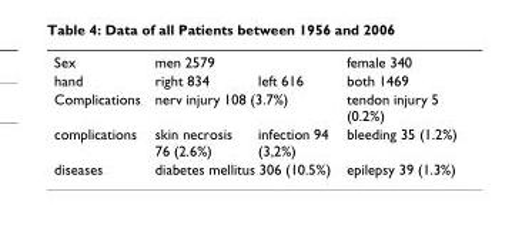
<table><tbody><tr><td>Sex</td><td colspan="2">men 2579</td><td>female 340</td></tr><tr><td>hand</td><td>right 834</td><td>left 616</td><td>both 1469</td></tr><tr><td>Complications</td><td colspan="2">nerv injury 108 (3.7%)</td><td>tendon injury 5 (0.2%)</td></tr><tr><td>complications</td><td>skin necrosis 76 (2.6%)</td><td>infection 94 (3,2%)</td><td>bleeding 35 (1.2%)</td></tr><tr><td>diseases</td><td colspan="2">diabetes mellitus 306 (10.5%)</td><td>epilepsy 39 (1.3%)</td></tr></tbody></table>